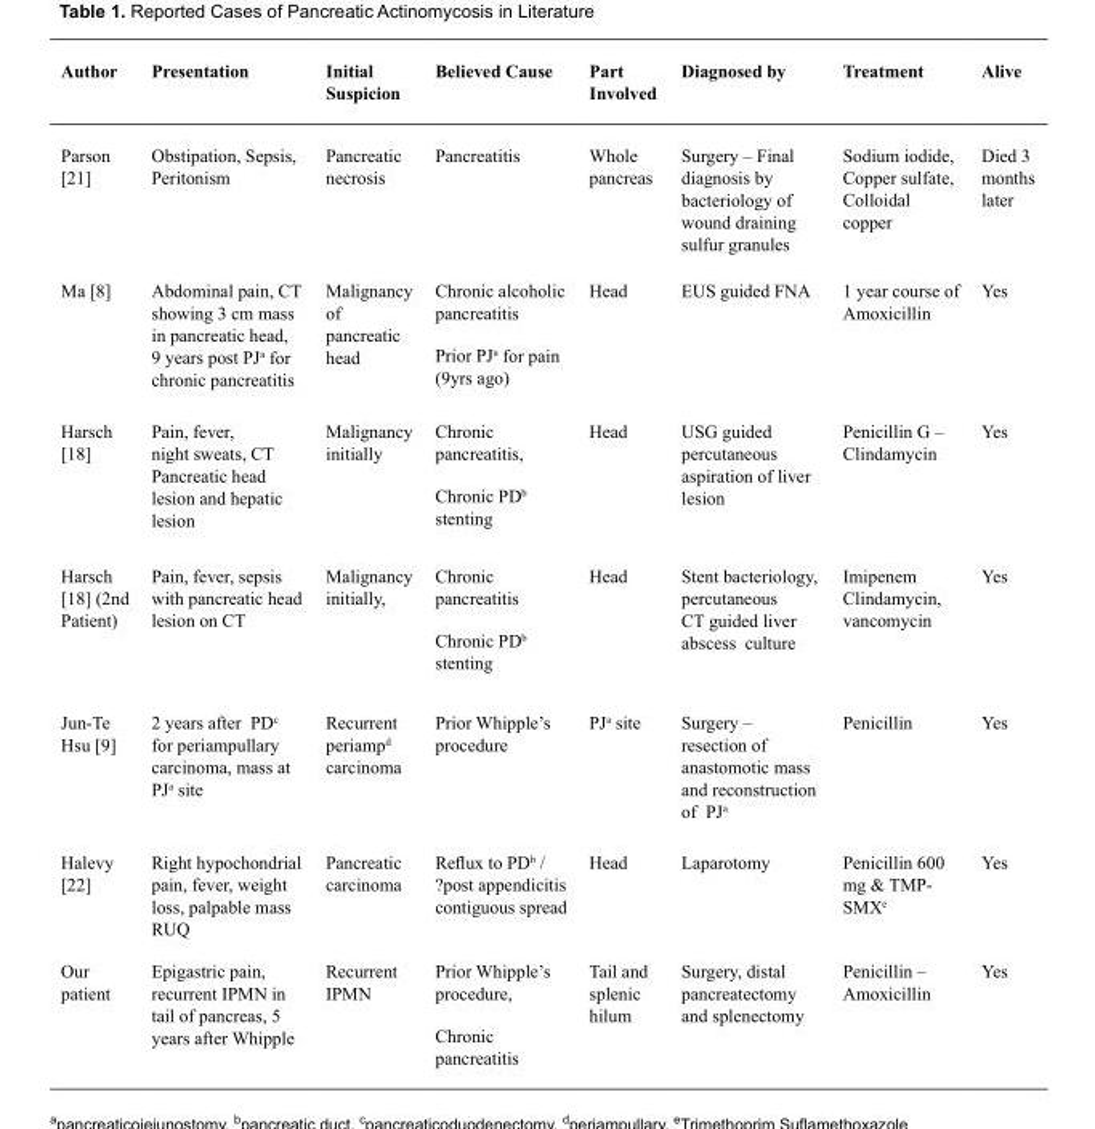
<table><thead><tr><td>Author</td><td>Presentation</td><td>Initial Suspicion</td><td>Believed Cause</td><td>Part Involved</td><td>Diagnosed by</td><td>Treatment</td><td>Alive</td></tr></thead><tbody><tr><td>Parson [21]</td><td>Obstipation, Sepsis, Peritonism</td><td>Pancreatic necrosis</td><td>Pancreatitis</td><td>Whole pancreas</td><td>Surgery – Final diagnosis by bacteriology of wound draining sulfur granules</td><td>Sodium iodide, Copper sulfate, Colloidal copper</td><td>Died 3 months later</td></tr><tr><td>Ma [8]</td><td>Abdominal pain, CT showing 3 cm mass in pancreatic head, 9 years post PJ<sup>a</sup> for chronic pancreatitis</td><td>Malignancy of pancreatic head</td><td>Chronic alcoholic pancreatitis Prior PJ<sup>a</sup> for pain (9yrs ago)</td><td>Head</td><td>EUS guided FNA</td><td>1 year course of Amoxicillin</td><td>Yes</td></tr><tr><td>Harsch [18]</td><td>Pain, fever, night sweats, CT Pancreatic head lesion and hepatic lesion</td><td>Malignancy initially</td><td>Chronic pancreatitis, Chronic PD<sup>b</sup> stenting</td><td>Head</td><td>USG guided percutaneous aspiration of liver lesion</td><td>Penicillin G – Clindamycin</td><td>Yes</td></tr><tr><td>Harsch [18] (2nd Patient)</td><td>Pain, fever, sepsis with pancreatic head lesion on CT</td><td>Malignancy initially,</td><td>Chronic pancreatitis Chronic PD<sup>b</sup> stenting</td><td>Head</td><td>Stent bacteriology, percutaneous CT guided liver abscess culture</td><td>Imipenem Clindamycin, vancomycin</td><td>Yes</td></tr><tr><td>Jun-Te Hsu [9]</td><td>2 years after PD<sup>c</sup> for periampullary carcinoma, mass at PJ<sup>a</sup> site</td><td>Recurrent periamp<sup>d</sup> carcinoma</td><td>Prior Whipple’s procedure</td><td>PJ<sup>a</sup> site</td><td>Surgery – resection of anastomotic mass and reconstruction of PJ<sup>a</sup></td><td>Penicillin</td><td>Yes</td></tr><tr><td>Halevy [22]</td><td>Right hypochondrial pain, fever, weight loss, palpable mass RUQ</td><td>Pancreatic carcinoma</td><td>Reflux to PD<sup>b</sup> / ?post appendicitis contiguous spread</td><td>Head</td><td>Laparotomy</td><td>Penicillin 600 mg &amp; TMP- SMX<sup>e</sup></td><td>Yes</td></tr><tr><td>Our patient</td><td>Epigastric pain, recurrent IPMN in tail of pancreas, 5 years after Whipple</td><td>Recurrent IPMN</td><td>Prior Whipple’s procedure, Chronic pancreatitis</td><td>Tail and splenic hilum</td><td>Surgery, distal pancreatectomy and splenectomy</td><td>Penicillin – Amoxicillin</td><td>Yes</td></tr></tbody></table>